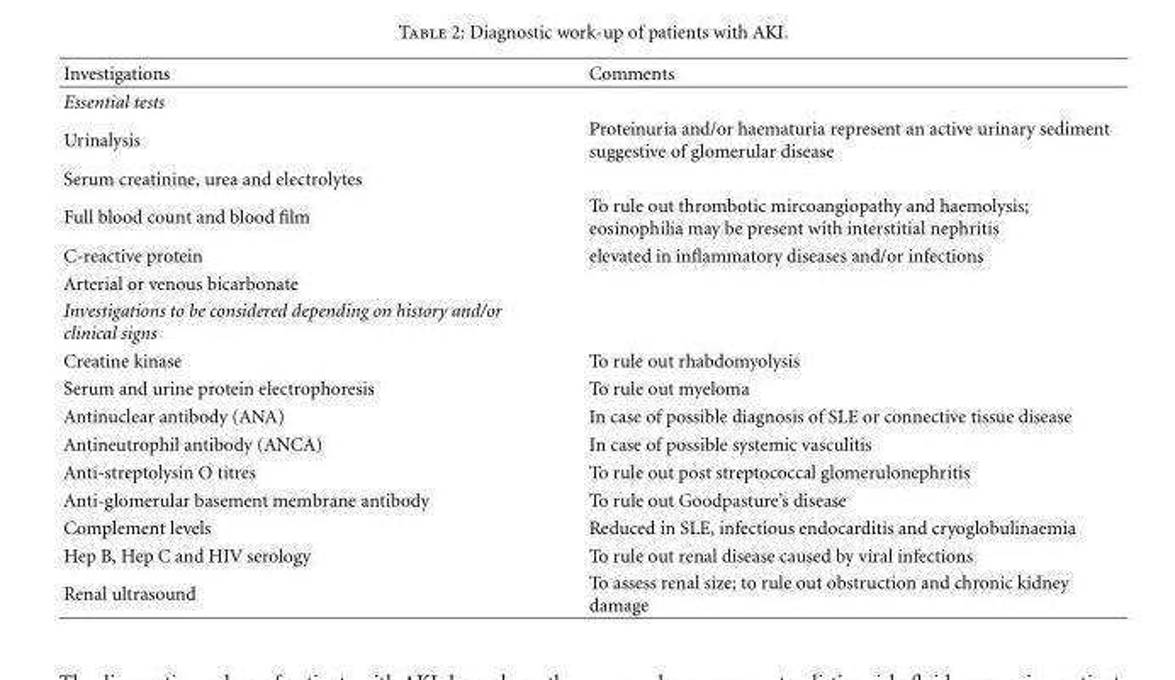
<table><thead><tr><td>Investigations</td><td>Comments</td></tr></thead><tbody><tr><td colspan="2">Essential tests</td></tr><tr><td>Urinalysis</td><td>Proteinuria and/or haematuria represent an active urinary sediment suggestive of glomerular disease</td></tr><tr><td colspan="2">Serum creatinine, urea and electrolytes</td></tr><tr><td>Full blood count and blood film</td><td>To rule out thrombotic mircoangiopathy and haemolysis; eosinophilia may be present with interstitial nephritis</td></tr><tr><td>C-reactive protein</td><td>elevated in inflammatory diseases and/or infections</td></tr><tr><td colspan="2">Arterial or venous bicarbonate</td></tr><tr><td colspan="2">Investigations to be considered depending on history and/or clinical signs</td></tr><tr><td>Creatine kinase</td><td>To rule out rhabdomyolysis</td></tr><tr><td>Serum and urine protein electrophoresis</td><td>To rule out myeloma</td></tr><tr><td>Antinuclear antibody (ANA)</td><td>In case of possible diagnosis of SLE or connective tissue disease</td></tr><tr><td>Antineutrophil antibody (ANCA)</td><td>In case of possible systemic vasculitis</td></tr><tr><td>Anti-streptolysin O titres</td><td>To rule out post streptococcal glomerulonephritis</td></tr><tr><td>Anti-glomerular basement membrane antibody</td><td>To rule out Goodpasture’s disease</td></tr><tr><td>Complement levels</td><td>Reduced in SLE, infectious endocarditis and cryoglobulinaemia</td></tr><tr><td>Hep B, Hep C and HIV serology</td><td>To rule out renal disease caused by viral infections</td></tr><tr><td>Renal ultrasound</td><td>To assess renal size; to rule out obstruction and chronic kidney damage</td></tr></tbody></table>